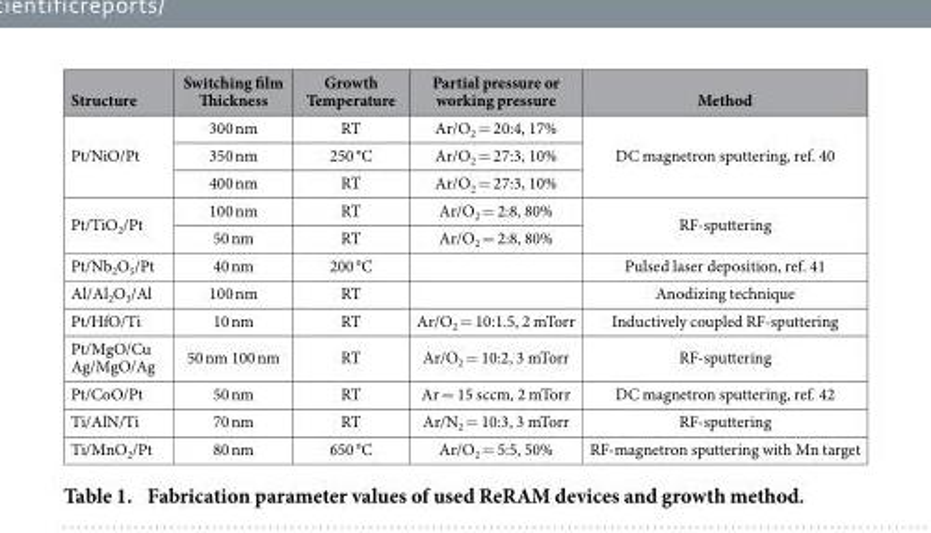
<table><thead><tr><td>Structure</td><td>Switching film Thickness</td><td>Growth Temperature</td><td>Partial pressure or working pressure</td><td>Method</td></tr></thead><tbody><tr><td rowspan="3">Pt/NiO/Pt</td><td>300 nm</td><td>RT</td><td>Ar/O<sub>2</sub> = 20:4, 17%</td><td rowspan="3">DC magnetron sputtering, ref. 40</td></tr><tr><td>350 nm</td><td>250 °C</td><td>Ar/O<sub>2</sub> = 27:3, 10%</td></tr><tr><td>400 nm</td><td>RT</td><td>Ar/O<sub>2</sub> = 27:3, 10%</td></tr><tr><td rowspan="2">Pt/TiO<sub>2</sub>/Pt</td><td>100 nm</td><td>RT</td><td>Ar/O<sub>2</sub> = 2:8, 80%</td><td rowspan="2">RF-sputtering</td></tr><tr><td>50 nm</td><td>RT</td><td>Ar/O<sub>2</sub> = 2:8, 80%</td></tr><tr><td>Pt/Nb<sub>2</sub>O<sub>5</sub>/Pt</td><td>40 nm</td><td>200 °C</td><td></td><td>Pulsed laser deposition, ref. 41</td></tr><tr><td>Al/Al<sub>2</sub>O<sub>3</sub>/Al</td><td>100 nm</td><td>RT</td><td></td><td>Anodizing technique</td></tr><tr><td>Pt/HfO/Ti</td><td>10 nm</td><td>RT</td><td>Ar/O<sub>2</sub> = 10:1.5, 2 mTorr</td><td>Inductively coupled RF-sputtering</td></tr><tr><td>Pt/MgO/Cu Ag/MgO/Ag</td><td>50 nm 100 nm</td><td>RT</td><td>Ar/O<sub>2</sub> = 10:2, 3 mTorr</td><td>RF-sputtering</td></tr><tr><td>Pt/CoO/Pt</td><td>50 nm</td><td>RT</td><td>Ar = 15 sccm, 2 mTorr</td><td>DC magnetron sputtering, ref. 42</td></tr><tr><td>Ti/AlN/Ti</td><td>70 nm</td><td>RT</td><td>Ar/N<sub>2</sub> = 10:3, 3 mTorr</td><td>RF-sputtering</td></tr><tr><td>Ti/MnO<sub>2</sub>/Pt</td><td>80 nm</td><td>650 °C</td><td>Ar/O<sub>2</sub> = 5:5, 50%</td><td>RF-magnetron sputtering with Mn target</td></tr></tbody></table>